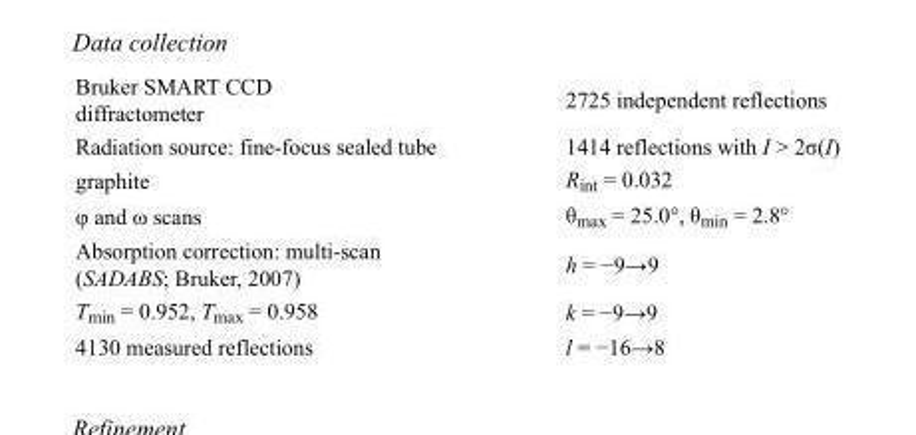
<table><tbody><tr><td>Bruker SMART CCD diffractometer</td><td>2725 independent reflections</td></tr><tr><td>Radiation source: fine-focus sealed tube</td><td>1414 reflections with I &gt; 2σ(I)</td></tr><tr><td>graphite</td><td>R<sub>int</sub> = 0.032</td></tr><tr><td>φ and ω scans</td><td>θ<sub>max</sub> = 25.0°, θ<sub>min</sub> = 2.8°</td></tr><tr><td>Absorption correction: multi-scan (SADABS; Bruker, 2007)</td><td>h = −9→9</td></tr><tr><td>T<sub>min</sub> = 0.952, T<sub>max</sub> = 0.958</td><td>k = −9→9</td></tr><tr><td>4130 measured reflections</td><td>l = −16→8</td></tr></tbody></table>